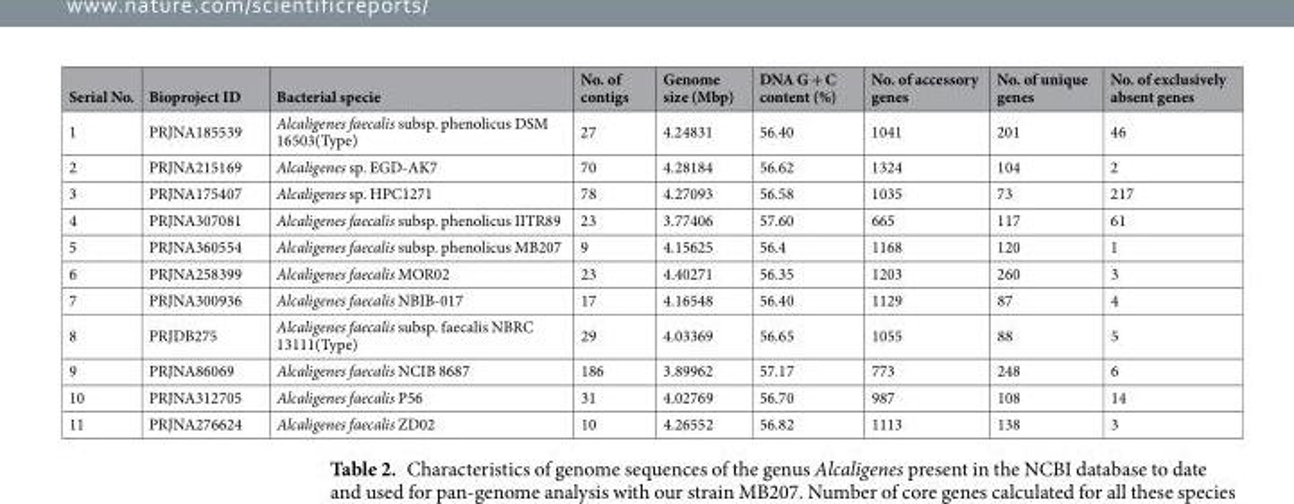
<table><thead><tr><td>Serial No.</td><td>Bioproject ID</td><td>Bacterial specie</td><td>No. of contigs</td><td>Genome size (Mbp)</td><td>DNA G + C content (%)</td><td>No. of accessory genes</td><td>No. of unique genes</td><td>No. of exclusively absent genes</td></tr></thead><tbody><tr><td>1</td><td>PRJNA185539</td><td>Alcaligenes faecalis subsp. phenolicus DSM 16503(Type)</td><td>27</td><td>4.24831</td><td>56.40</td><td>1041</td><td>201</td><td>46</td></tr><tr><td>2</td><td>PRJNA215169</td><td>Alcaligenes sp. EGD-AK7</td><td>70</td><td>4.28184</td><td>56.62</td><td>1324</td><td>104</td><td>2</td></tr><tr><td>3</td><td>PRJNA175407</td><td>Alcaligenes sp. HPC1271</td><td>78</td><td>4.27093</td><td>56.58</td><td>1035</td><td>73</td><td>217</td></tr><tr><td>4</td><td>PRJNA307081</td><td>Alcaligenes faecalis subsp. phenolicus IITR89</td><td>23</td><td>3.77406</td><td>57.60</td><td>665</td><td>117</td><td>61</td></tr><tr><td>5</td><td>PRJNA360554</td><td>Alcaligenes faecalis subsp. phenolicus MB207</td><td>9</td><td>4.15625</td><td>56.4</td><td>1168</td><td>120</td><td>1</td></tr><tr><td>6</td><td>PRJNA258399</td><td>Alcaligenes faecalis MOR02</td><td>23</td><td>4.40271</td><td>56.35</td><td>1203</td><td>260</td><td>3</td></tr><tr><td>7</td><td>PRJNA300936</td><td>Alcaligenes faecalis NBIB-017</td><td>17</td><td>4.16548</td><td>56.40</td><td>1129</td><td>87</td><td>4</td></tr><tr><td>8</td><td>PRJDB275</td><td>Alcaligenes faecalis subsp. faecalis NBRC 13111(Type)</td><td>29</td><td>4.03369</td><td>56.65</td><td>1055</td><td>88</td><td>5</td></tr><tr><td>9</td><td>PRJNA86069</td><td>Alcaligenes faecalis NCIB 8687</td><td>186</td><td>3.89962</td><td>57.17</td><td>773</td><td>248</td><td>6</td></tr><tr><td>10</td><td>PRJNA312705</td><td>Alcaligenes faecalis P56</td><td>31</td><td>4.02769</td><td>56.70</td><td>987</td><td>108</td><td>14</td></tr><tr><td>11</td><td>PRJNA276624</td><td>Alcaligenes faecalis ZD02</td><td>10</td><td>4.26552</td><td>56.82</td><td>1113</td><td>138</td><td>3</td></tr></tbody></table>